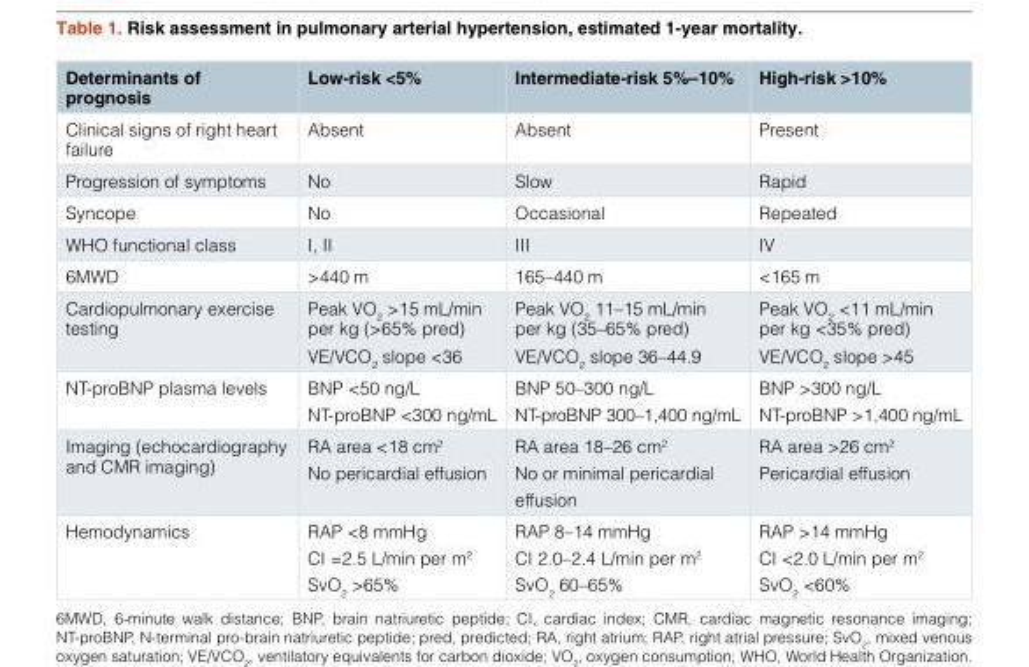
<table><thead><tr><td>Determinants of prognosis</td><td>Low-risk &lt;5%</td><td>Intermediate-risk 5%–10%</td><td>High-risk &gt;10%</td></tr></thead><tbody><tr><td>Clinical signs of right heart failure</td><td>Absent</td><td>Absent</td><td>Present</td></tr><tr><td>Progression of symptoms</td><td>No</td><td>Slow</td><td>Rapid</td></tr><tr><td>Syncope</td><td>No</td><td>Occasional</td><td>Repeated</td></tr><tr><td>WHO functional class</td><td>I, II</td><td>III</td><td>IV</td></tr><tr><td>6MWD</td><td>&gt;440 m</td><td>165–440 m</td><td>&lt;165 m</td></tr><tr><td>Cardiopulmonary exercise testing</td><td>Peak VO<sub>2</sub> &gt;15 mL/min per kg (&gt;65% pred) VE/VCO<sub>2</sub> slope &lt;36</td><td>Peak VO<sub>2</sub> 11–15 mL/min per kg (35–65% pred) VE/VCO<sub>2</sub> slope 36–44.9</td><td>Peak VO<sub>2</sub> &lt;11 mL/min per kg &lt;35% pred) VE/VCO<sub>2</sub> slope &gt;45</td></tr><tr><td>NT-proBNP plasma levels</td><td>BNP &lt;50 ng/L NT-proBNP &lt;300 ng/mL</td><td>BNP 50–300 ng/L NT-proBNP 300–1,400 ng/mL</td><td>BNP &gt;300 ng/L NT-proBNP &gt;1,400 ng/mL</td></tr><tr><td>Imaging (echocardiography and CMR imaging)</td><td>RA area &lt;18 cm<sup>2</sup> No pericardial effusion</td><td>RA area 18–26 cm<sup>2</sup> No or minimal pericardial effusion</td><td>RA area &gt;26 cm<sup>2</sup> Pericardial effusion</td></tr><tr><td>Hemodynamics</td><td>RAP &lt;8 mmHg CI =2.5 L/min per m<sup>2</sup> SvO<sub>2</sub> &gt;65%</td><td>RAP 8–14 mmHg CI 2.0–2.4 L/min per m<sup>2</sup> SvO<sub>2</sub> 60–65%</td><td>RAP &gt;14 mmHg CI &lt;2.0 L/min per m<sup>2</sup> SvO<sub>2</sub> &lt;60%</td></tr></tbody></table>